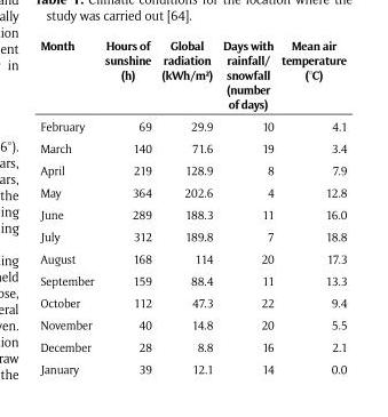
<table><thead><tr><td>Month</td><td>Hours of sunshine (h)</td><td>Global radiation (kWh/m²)</td><td>Days with rainfall/ snowfall (number of days)</td><td>Mean air temperature (°C)</td></tr></thead><tbody><tr><td>February</td><td>69</td><td>29.9</td><td>10</td><td>4.1</td></tr><tr><td>March</td><td>140</td><td>71.6</td><td>19</td><td>3.4</td></tr><tr><td>April</td><td>219</td><td>128.9</td><td>8</td><td>7.9</td></tr><tr><td>May</td><td>364</td><td>202.6</td><td>4</td><td>12.8</td></tr><tr><td>June</td><td>289</td><td>188.3</td><td>11</td><td>16.0</td></tr><tr><td>July</td><td>312</td><td>189.8</td><td>7</td><td>18.8</td></tr><tr><td>August</td><td>168</td><td>114</td><td>20</td><td>17.3</td></tr><tr><td>September</td><td>159</td><td>88.4</td><td>11</td><td>13.3</td></tr><tr><td>October</td><td>112</td><td>47.3</td><td>22</td><td>9.4</td></tr><tr><td>November</td><td>40</td><td>14.8</td><td>20</td><td>5.5</td></tr><tr><td>December</td><td>28</td><td>8.8</td><td>16</td><td>2.1</td></tr><tr><td>January</td><td>39</td><td>12.1</td><td>14</td><td>0.0</td></tr></tbody></table>